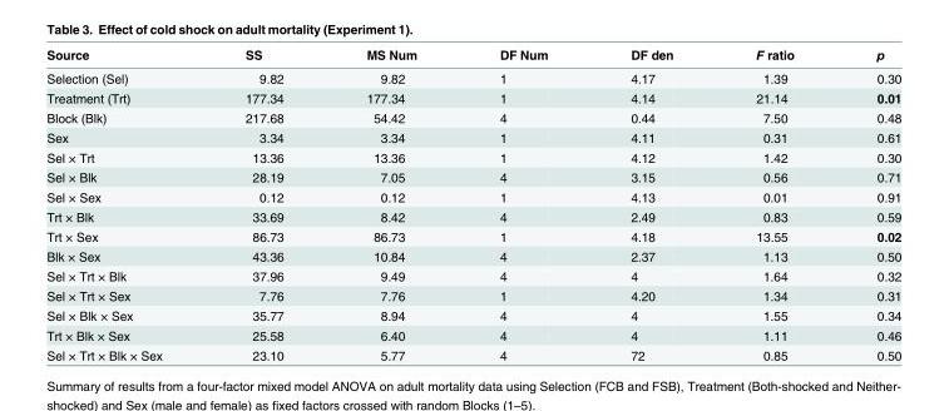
<table><thead><tr><td>Source</td><td>SS</td><td>MS Num</td><td>DF Num</td><td>DF den</td><td>F ratio</td><td>p</td></tr></thead><tbody><tr><td>Selection (Sel)</td><td>9.82</td><td>9.82</td><td>1</td><td>4.17</td><td>1.39</td><td>0.30</td></tr><tr><td>Treatment (Trt)</td><td>177.34</td><td>177.34</td><td>1</td><td>4.14</td><td>21.14</td><td>0.01</td></tr><tr><td>Block (Blk)</td><td>217.68</td><td>54.42</td><td>4</td><td>0.44</td><td>7.50</td><td>0.48</td></tr><tr><td>Sex</td><td>3.34</td><td>3.34</td><td>1</td><td>4.11</td><td>0.31</td><td>0.61</td></tr><tr><td>Sel × Trt</td><td>13.36</td><td>13.36</td><td>1</td><td>4.12</td><td>1.42</td><td>0.30</td></tr><tr><td>Sel × Blk</td><td>28.19</td><td>7.05</td><td>4</td><td>3.15</td><td>0.56</td><td>0.71</td></tr><tr><td>Sel × Sex</td><td>0.12</td><td>0.12</td><td>1</td><td>4.13</td><td>0.01</td><td>0.91</td></tr><tr><td>Trt × Blk</td><td>33.69</td><td>8.42</td><td>4</td><td>2.49</td><td>0.83</td><td>0.59</td></tr><tr><td>Trt × Sex</td><td>86.73</td><td>86.73</td><td>1</td><td>4.18</td><td>13.55</td><td>0.02</td></tr><tr><td>Blk × Sex</td><td>43.36</td><td>10.84</td><td>4</td><td>2.37</td><td>1.13</td><td>0.50</td></tr><tr><td>Sel × Trt × Blk</td><td>37.96</td><td>9.49</td><td>4</td><td>4</td><td>1.64</td><td>0.32</td></tr><tr><td>Sel × Trt × Sex</td><td>7.76</td><td>7.76</td><td>1</td><td>4.20</td><td>1.34</td><td>0.31</td></tr><tr><td>Sel × Blk × Sex</td><td>35.77</td><td>8.94</td><td>4</td><td>4</td><td>1.55</td><td>0.34</td></tr><tr><td>Trt × Blk × Sex</td><td>25.58</td><td>6.40</td><td>4</td><td>4</td><td>1.11</td><td>0.46</td></tr><tr><td>Sel × Trt × Blk × Sex</td><td>23.10</td><td>5.77</td><td>4</td><td>72</td><td>0.85</td><td>0.50</td></tr></tbody></table>